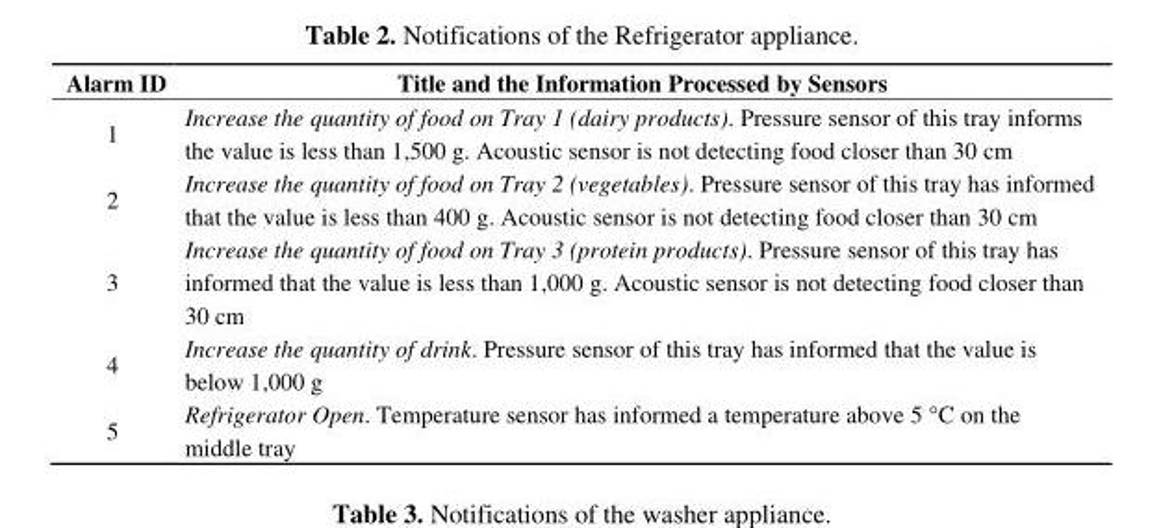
<table><thead><tr><td>Alarm ID</td><td>Title and the Information Processed by Sensors</td></tr></thead><tbody><tr><td>1</td><td>Increase the quantity of food on Tray 1 (dairy products). Pressure sensor of this tray informs the value is less than 1,500 g. Acoustic sensor is not detecting food closer than 30 cm</td></tr><tr><td>2</td><td>Increase the quantity of food on Tray 2 (vegetables). Pressure sensor of this tray has informed that the value is less than 400 g. Acoustic sensor is not detecting food closer than 30 cm</td></tr><tr><td>3</td><td>Increase the quantity of food on Tray 3 (protein products). Pressure sensor of this tray has informed that the value is less than 1,000 g. Acoustic sensor is not detecting food closer than 30 cm</td></tr><tr><td>4</td><td>Increase the quantity of drink. Pressure sensor of this tray has informed that the value is below 1,000 g</td></tr><tr><td>5</td><td>Refrigerator Open. Temperature sensor has informed a temperature above 5 °C on the middle tray</td></tr></tbody></table>